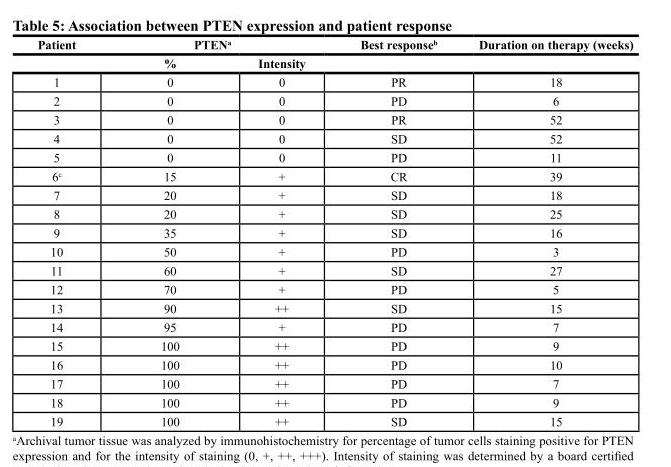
<table><thead><tr><td rowspan="2">Patient</td><td rowspan="2">PTEN<sup>a</sup> %</td><td rowspan="2">Intensity</td><td rowspan="2">Best response<sup>b</sup></td><td rowspan="2">Duration on therapy (weeks)</td></tr><tr></tr></thead><tbody><tr><td>1</td><td>0</td><td>0</td><td>PR</td><td>18</td></tr><tr><td>2</td><td>0</td><td>0</td><td>PD</td><td>6</td></tr><tr><td>3</td><td>0</td><td>0</td><td>PR</td><td>52</td></tr><tr><td>4</td><td>0</td><td>0</td><td>SD</td><td>52</td></tr><tr><td>5</td><td>0</td><td>0</td><td>PD</td><td>11</td></tr><tr><td>6<sup>c</sup></td><td>15</td><td>+</td><td>CR</td><td>39</td></tr><tr><td>7</td><td>20</td><td>+</td><td>SD</td><td>18</td></tr><tr><td>8</td><td>20</td><td>+</td><td>SD</td><td>25</td></tr><tr><td>9</td><td>35</td><td>+</td><td>SD</td><td>16</td></tr><tr><td>10</td><td>50</td><td>+</td><td>PD</td><td>3</td></tr><tr><td>11</td><td>60</td><td>+</td><td>SD</td><td>27</td></tr><tr><td>12</td><td>70</td><td>+</td><td>PD</td><td>5</td></tr><tr><td>13</td><td>90</td><td>++</td><td>SD</td><td>15</td></tr><tr><td>14</td><td>95</td><td>+</td><td>PD</td><td>7</td></tr><tr><td>15</td><td>100</td><td>++</td><td>PD</td><td>9</td></tr><tr><td>16</td><td>100</td><td>++</td><td>PD</td><td>10</td></tr><tr><td>17</td><td>100</td><td>++</td><td>PD</td><td>7</td></tr><tr><td>18</td><td>100</td><td>++</td><td>PD</td><td>9</td></tr><tr><td>19</td><td>100</td><td>++</td><td>SD</td><td>15</td></tr></tbody></table>